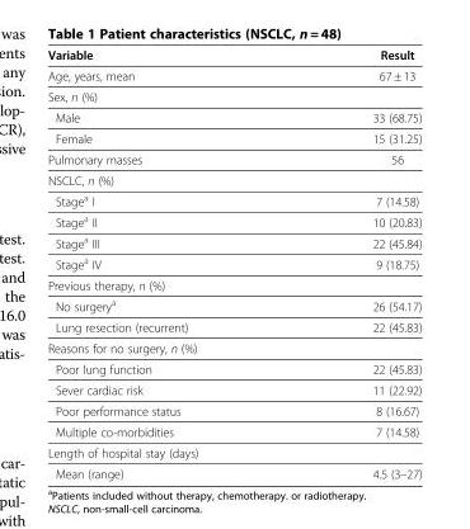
<table><thead><tr><td>Variable</td><td>Result</td></tr></thead><tbody><tr><td>Age, years, mean</td><td>67 ± 13</td></tr><tr><td colspan="2">Sex, n (%)</td></tr><tr><td>Male</td><td>33 (68.75)</td></tr><tr><td>Female</td><td>15 (31.25)</td></tr><tr><td>Pulmonary masses</td><td>56</td></tr><tr><td colspan="2">NSCLC, n (%)</td></tr><tr><td>Stage<sup>a</sup> I</td><td>7 (14.58)</td></tr><tr><td>Stage<sup>a</sup> II</td><td>10 (20.83)</td></tr><tr><td>Stage<sup>a</sup> III</td><td>22 (45.84)</td></tr><tr><td>Stage<sup>a</sup> IV</td><td>9 (18.75)</td></tr><tr><td colspan="2">Previous therapy, n (%)</td></tr><tr><td>No surgery<sup>a</sup></td><td>26 (54.17)</td></tr><tr><td>Lung resection (recurrent)</td><td>22 (45.83)</td></tr><tr><td colspan="2">Reasons for no surgery, n (%)</td></tr><tr><td>Poor lung function</td><td>22 (45.83)</td></tr><tr><td>Sever cardiac risk</td><td>11 (22.92)</td></tr><tr><td>Poor performance status</td><td>8 (16.67)</td></tr><tr><td>Multiple co-morbidities</td><td>7 (14.58)</td></tr><tr><td colspan="2">Length of hospital stay (days)</td></tr><tr><td>Mean (range)</td><td>4.5 (3–27)</td></tr></tbody></table>